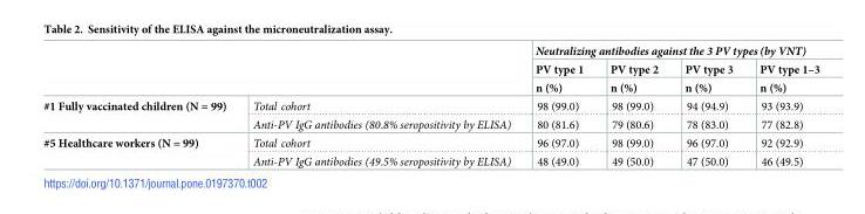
<table><thead><tr><td rowspan="3"></td><td rowspan="3"></td><td colspan="4">Neutralizing antibodies against the 3 PV types (by VNT)</td></tr><tr><td rowspan="2">PV type 1 n (%)</td><td rowspan="2">PV type 2 n (%)</td><td rowspan="2">PV type 3 n (%)</td><td rowspan="2">PV type 1–3 n (%)</td></tr><tr></tr></thead><tbody><tr><td rowspan="2">#1 Fully vaccinated children (N = 99)</td><td>Total cohort</td><td>98 (99.0)</td><td>98 (99.0)</td><td>94 (94.9)</td><td>93 (93.9)</td></tr><tr><td>Anti-PV IgG antibodies (80.8% seropositivity by ELISA)</td><td>80 (81.6)</td><td>79 (80.6)</td><td>78 (83.0)</td><td>77 (82.8)</td></tr><tr><td rowspan="2">#5 Healthcare workers (N = 99)</td><td>Total cohort</td><td>96 (97.0)</td><td>98 (99.0)</td><td>96 (97.0)</td><td>92 (92.9)</td></tr><tr><td>Anti-PV IgG antibodies (49.5% seropositivity by ELISA)</td><td>48 (49.0)</td><td>49 (50.0)</td><td>47 (50.0)</td><td>46 (49.5)</td></tr></tbody></table>